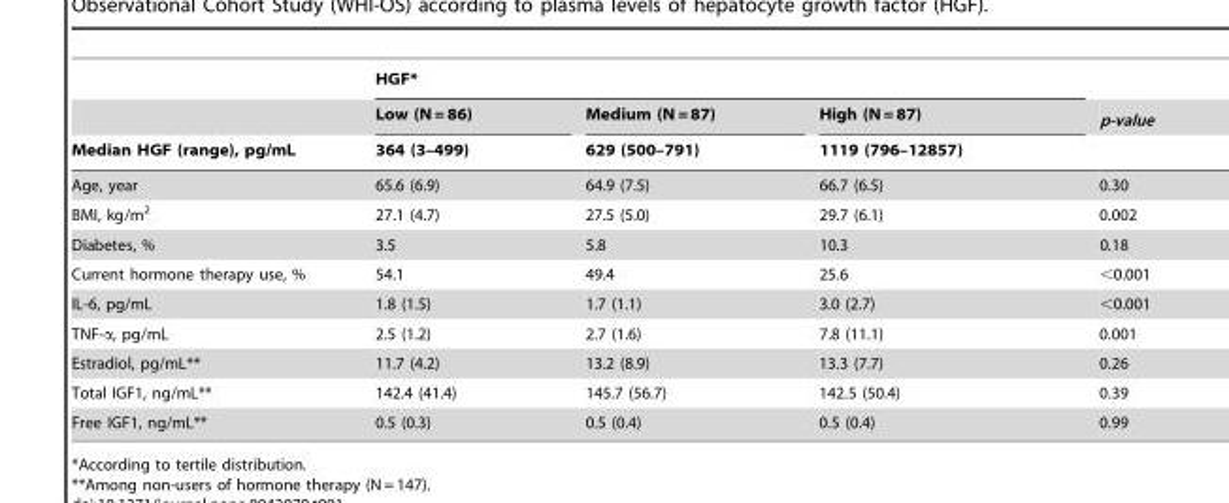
<table><thead><tr><td rowspan="3">Median HGF (range), pg/mL</td><td colspan="3">HGF*</td><td rowspan="3">p-value</td></tr><tr><td rowspan="2">Low (N = 86) 364 (3–499)</td><td rowspan="2">Medium (N = 87) 629 (500–791)</td><td rowspan="2">High (N = 87) 1119 (796–12857)</td></tr><tr></tr></thead><tbody><tr><td>Age, year</td><td>65.6 (6.9)</td><td>64.9 (7.5)</td><td>66.7 (6.5)</td><td>0.30</td></tr><tr><td>BMI, kg/m<sup>2</sup></td><td>27.1 (4.7)</td><td>27.5 (5.0)</td><td>29.7 (6.1)</td><td>0.002</td></tr><tr><td>Diabetes, %</td><td>3.5</td><td>5.8</td><td>10.3</td><td>0.18</td></tr><tr><td>Current hormone therapy use, %</td><td>54.1</td><td>49.4</td><td>25.6</td><td>&lt;0.001</td></tr><tr><td>IL-6, pg/mL</td><td>1.8 (1.5)</td><td>1.7 (1.1)</td><td>3.0 (2.7)</td><td>&lt;0.001</td></tr><tr><td>TNF-α, pg/mL</td><td>2.5 (1.2)</td><td>2.7 (1.6)</td><td>7.8 (11.1)</td><td>0.001</td></tr><tr><td>Estradiol, pg/mL**</td><td>11.7 (4.2)</td><td>13.2 (8.9)</td><td>13.3 (7.7)</td><td>0.26</td></tr><tr><td>Total IGF1, ng/mL**</td><td>142.4 (41.4)</td><td>145.7 (56.7)</td><td>142.5 (50.4)</td><td>0.39</td></tr><tr><td>Free IGF1, ng/mL**</td><td>0.5 (0.3)</td><td>0.5 (0.4)</td><td>0.5 (0.4)</td><td>0.99</td></tr></tbody></table>